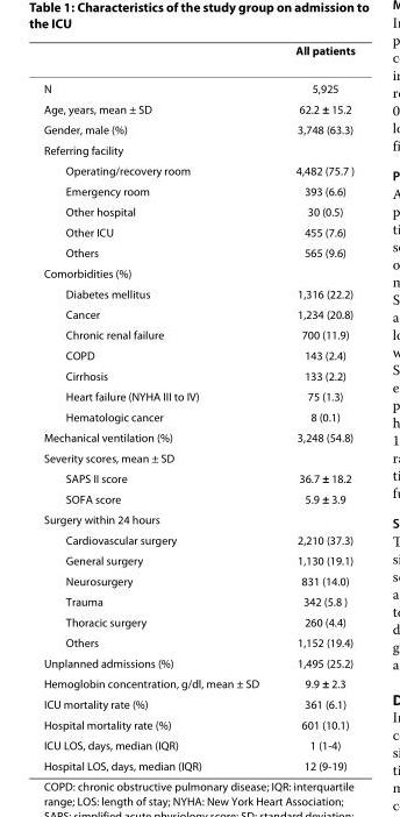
<table><thead><tr><td></td><td>All patients</td></tr></thead><tbody><tr><td>N</td><td>5,925</td></tr><tr><td>Age, years, mean ± SD</td><td>62.2 ± 15.2</td></tr><tr><td>Gender, male (%)</td><td>3,748 (63.3)</td></tr><tr><td colspan="2">Referring facility</td></tr><tr><td>Operating/recovery room</td><td>4,482 (75.7 )</td></tr><tr><td>Emergency room</td><td>393 (6.6)</td></tr><tr><td>Other hospital</td><td>30 (0.5)</td></tr><tr><td>Other ICU</td><td>455 (7.6)</td></tr><tr><td>Others</td><td>565 (9.6)</td></tr><tr><td colspan="2">Comorbidities (%)</td></tr><tr><td>Diabetes mellitus</td><td>1,316 (22.2)</td></tr><tr><td>Cancer</td><td>1,234 (20.8)</td></tr><tr><td>Chronic renal failure</td><td>700 (11.9)</td></tr><tr><td>COPD</td><td>143 (2.4)</td></tr><tr><td>Cirrhosis</td><td>133 (2.2)</td></tr><tr><td>Heart failure (NYHA III to IV)</td><td>75 (1.3)</td></tr><tr><td>Hematologic cancer</td><td>8 (0.1)</td></tr><tr><td>Mechanical ventilation (%)</td><td>3,248 (54.8)</td></tr><tr><td colspan="2">Severity scores, mean ± SD</td></tr><tr><td>SAPS II score</td><td>36.7 ± 18.2</td></tr><tr><td>SOFA score</td><td>5.9 ± 3.9</td></tr><tr><td colspan="2">Surgery within 24 hours</td></tr><tr><td>Cardiovascular surgery</td><td>2,210 (37.3)</td></tr><tr><td>General surgery</td><td>1,130 (19.1)</td></tr><tr><td>Neurosurgery</td><td>831 (14.0)</td></tr><tr><td>Trauma</td><td>342 (5.8 )</td></tr><tr><td>Thoracic surgery</td><td>260 (4.4)</td></tr><tr><td>Others</td><td>1,152 (19.4)</td></tr><tr><td>Unplanned admissions (%)</td><td>1,495 (25.2)</td></tr><tr><td>Hemoglobin concentration, g/dl, mean ± SD</td><td>9.9 ± 2.3</td></tr><tr><td>ICU mortality rate (%)</td><td>361 (6.1)</td></tr><tr><td>Hospital mortality rate (%)</td><td>601 (10.1)</td></tr><tr><td>ICU LOS, days, median (IQR)</td><td>1 (1-4)</td></tr><tr><td>Hospital LOS, days, median (IQR)</td><td>12 (9-19)</td></tr></tbody></table>